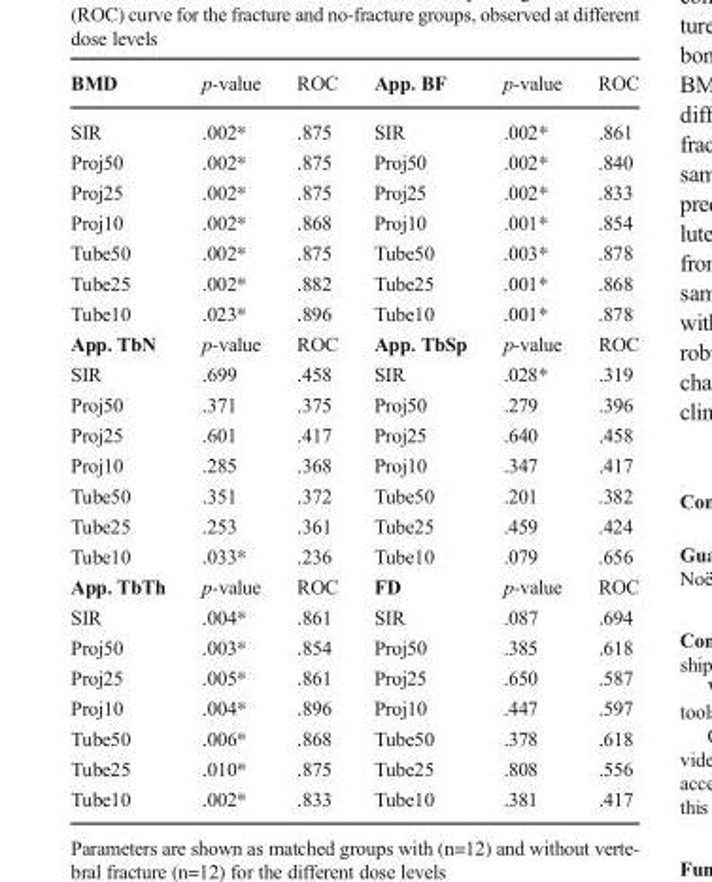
<table><thead><tr><td>BMD</td><td>p-value</td><td>ROC</td><td>App. BF</td><td>p-value</td><td>ROC</td></tr></thead><tbody><tr><td>SIR</td><td>.002*</td><td>.875</td><td>SIR</td><td>.002*</td><td>.861</td></tr><tr><td>Proj50</td><td>.002*</td><td>.875</td><td>Proj50</td><td>.002*</td><td>.840</td></tr><tr><td>Proj25</td><td>.002*</td><td>.875</td><td>Proj25</td><td>.002*</td><td>.833</td></tr><tr><td>Proj10</td><td>.002*</td><td>.868</td><td>Proj10</td><td>.001*</td><td>.854</td></tr><tr><td>Tube50</td><td>.002*</td><td>.875</td><td>Tube50</td><td>.003*</td><td>.878</td></tr><tr><td>Tube25</td><td>.002*</td><td>.882</td><td>Tube25</td><td>.001*</td><td>.868</td></tr><tr><td>Tube10</td><td>.023*</td><td>.896</td><td>Tube10</td><td>.001*</td><td>.878</td></tr><tr><td>App. TbN</td><td>p-value</td><td>ROC</td><td>App. TbSp</td><td>p-value</td><td>ROC</td></tr><tr><td>SIR</td><td>.699</td><td>.458</td><td>SIR</td><td>.028*</td><td>.319</td></tr><tr><td>Proj50</td><td>.371</td><td>.375</td><td>Proj50</td><td>.279</td><td>.396</td></tr><tr><td>Proj25</td><td>.601</td><td>.417</td><td>Proj25</td><td>.640</td><td>.458</td></tr><tr><td>Proj10</td><td>.285</td><td>.368</td><td>Proj10</td><td>.347</td><td>.417</td></tr><tr><td>Tube50</td><td>.351</td><td>.372</td><td>Tube50</td><td>.201</td><td>.382</td></tr><tr><td>Tube25</td><td>.253</td><td>.361</td><td>Tube25</td><td>.459</td><td>.424</td></tr><tr><td>Tube10</td><td>.033*</td><td>.236</td><td>Tube10</td><td>.079</td><td>.656</td></tr><tr><td>App. TbTh</td><td>p-value</td><td>ROC</td><td>FD</td><td>p-value</td><td>ROC</td></tr><tr><td>SIR</td><td>.004*</td><td>.861</td><td>SIR</td><td>.087</td><td>.694</td></tr><tr><td>Proj50</td><td>.003*</td><td>.854</td><td>Proj50</td><td>.385</td><td>.618</td></tr><tr><td>Proj25</td><td>.005*</td><td>.861</td><td>Proj25</td><td>.650</td><td>.587</td></tr><tr><td>Proj10</td><td>.004*</td><td>.896</td><td>Proj10</td><td>.447</td><td>.597</td></tr><tr><td>Tube50</td><td>.006*</td><td>.868</td><td>Tube50</td><td>.378</td><td>.618</td></tr><tr><td>Tube25</td><td>.010*</td><td>.875</td><td>Tube25</td><td>.808</td><td>.556</td></tr><tr><td>Tube10</td><td>.002*</td><td>.833</td><td>Tube10</td><td>.381</td><td>.417</td></tr></tbody></table>